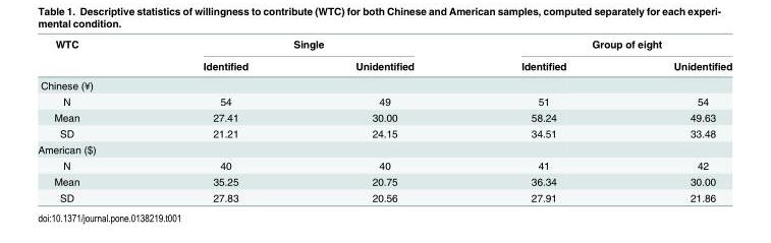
<table><thead><tr><td rowspan="2">WTC</td><td colspan="2">Single</td><td colspan="2">Group of eight</td></tr><tr><td>Identified</td><td>Unidentified</td><td>Identified</td><td>Unidentified</td></tr></thead><tbody><tr><td colspan="5">Chinese (¥)</td></tr><tr><td>N</td><td>54</td><td>49</td><td>51</td><td>54</td></tr><tr><td>Mean</td><td>27.41</td><td>30.00</td><td>58.24</td><td>49.63</td></tr><tr><td>SD</td><td>21.21</td><td>24.15</td><td>34.51</td><td>33.48</td></tr><tr><td colspan="5">American ($)</td></tr><tr><td>N</td><td>40</td><td>40</td><td>41</td><td>42</td></tr><tr><td>Mean</td><td>35.25</td><td>20.75</td><td>36.34</td><td>30.00</td></tr><tr><td>SD</td><td>27.83</td><td>20.56</td><td>27.91</td><td>21.86</td></tr></tbody></table>